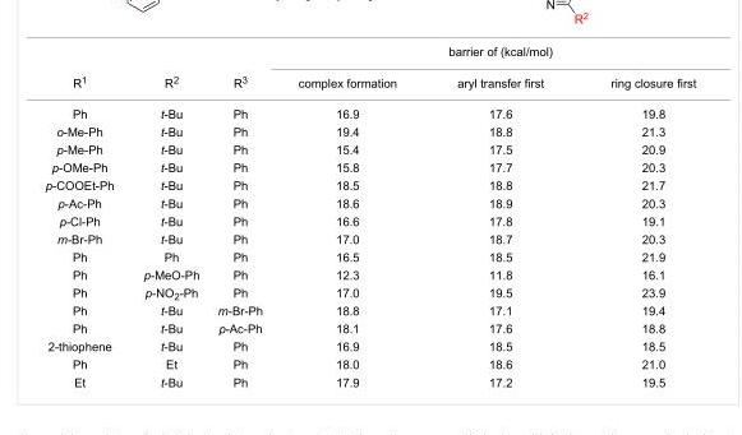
<table><thead><tr><td rowspan="2">R<sup>1</sup></td><td rowspan="2">R<sup>2</sup></td><td rowspan="2">R<sup>3</sup></td><td colspan="3">barrier of (kcal/mol)</td></tr><tr><td>complex formation</td><td>aryl transfer first</td><td>ring closure first</td></tr></thead><tbody><tr><td>Ph</td><td>t-Bu</td><td>Ph</td><td>16.9</td><td>17.6</td><td>19.8</td></tr><tr><td>o-Me-Ph</td><td>t-Bu</td><td>Ph</td><td>19.4</td><td>18.8</td><td>21.3</td></tr><tr><td>p-Me-Ph</td><td>t-Bu</td><td>Ph</td><td>15.4</td><td>17.5</td><td>20.9</td></tr><tr><td>p-OMe-Ph</td><td>t-Bu</td><td>Ph</td><td>15.8</td><td>17.7</td><td>20.3</td></tr><tr><td>p-COOEt-Ph</td><td>t-Bu</td><td>Ph</td><td>18.5</td><td>18.8</td><td>21.7</td></tr><tr><td>p-Ac-Ph</td><td>t-Bu</td><td>Ph</td><td>18.6</td><td>18.9</td><td>20.3</td></tr><tr><td>p-Cl-Ph</td><td>t-Bu</td><td>Ph</td><td>16.6</td><td>17.8</td><td>19.1</td></tr><tr><td>m-Br-Ph</td><td>t-Bu</td><td>Ph</td><td>17.0</td><td>18.7</td><td>20.3</td></tr><tr><td>Ph</td><td>Ph</td><td>Ph</td><td>16.5</td><td>18.5</td><td>21.9</td></tr><tr><td>Ph</td><td>p-MeO-Ph</td><td>Ph</td><td>12.3</td><td>11.8</td><td>16.1</td></tr><tr><td>Ph</td><td>p-NO<sub>2</sub>-Ph</td><td>Ph</td><td>17.0</td><td>19.5</td><td>23.9</td></tr><tr><td>Ph</td><td>t-Bu</td><td>m-Br-Ph</td><td>18.8</td><td>17.1</td><td>19.4</td></tr><tr><td>Ph</td><td>t-Bu</td><td>p-Ac-Ph</td><td>18.1</td><td>17.6</td><td>18.8</td></tr><tr><td>2-thiophene</td><td>t-Bu</td><td>Ph</td><td>16.9</td><td>18.5</td><td>18.5</td></tr><tr><td>Ph</td><td>Et</td><td>Ph</td><td>18.0</td><td>18.6</td><td>21.0</td></tr><tr><td>Et</td><td>t-Bu</td><td>Ph</td><td>17.9</td><td>17.2</td><td>19.5</td></tr></tbody></table>